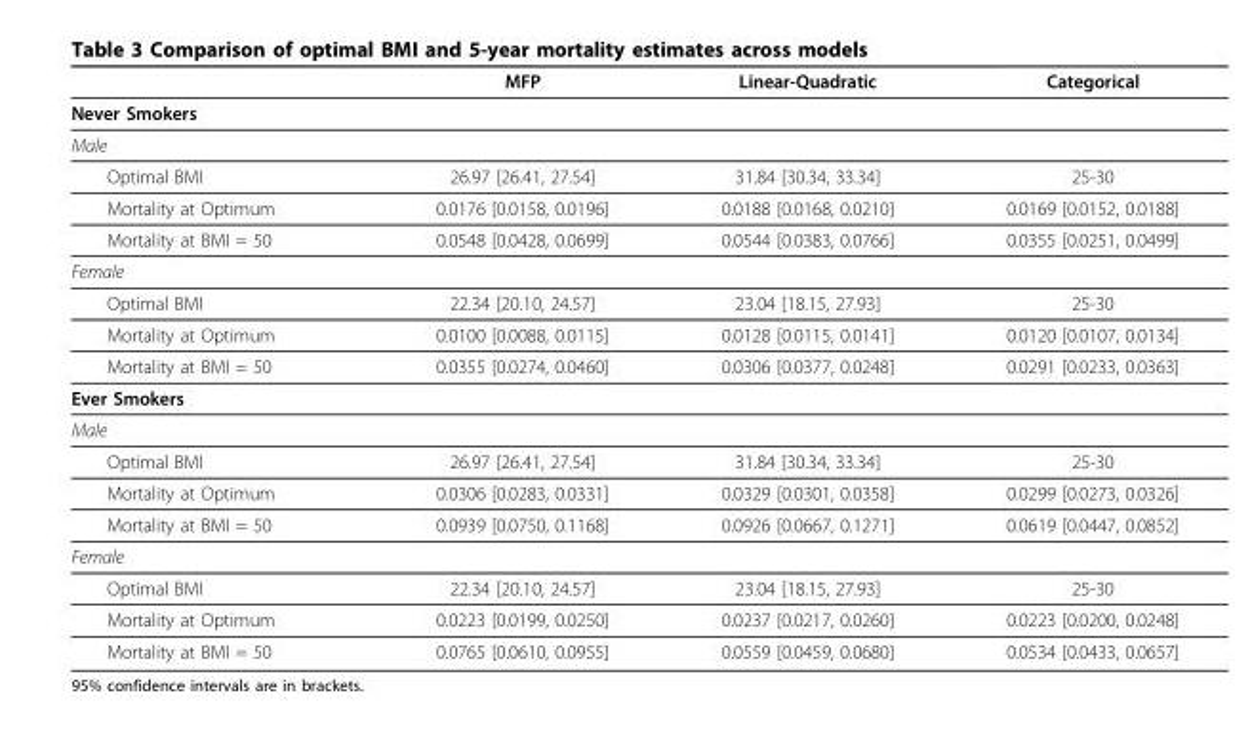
<table><thead><tr><td></td><td>MFP</td><td>Linear-Quadratic</td><td>Categorical</td></tr></thead><tbody><tr><td colspan="4">Never Smokers</td></tr><tr><td colspan="4">Male</td></tr><tr><td>Optimal BMI</td><td>26.97 [26.41, 27.54]</td><td>31.84 [30.34, 33.34]</td><td>25-30</td></tr><tr><td>Mortality at Optimum</td><td>0.0176 [0.0158, 0.0196]</td><td>0.0188 [0.0168, 0.0210]</td><td>0.0169 [0.0152, 0.0188]</td></tr><tr><td>Mortality at BMI = 50</td><td>0.0548 [0.0428, 0.0699]</td><td>0.0544 [0.0383, 0.0766]</td><td>0.0355 [0.0251, 0.0499]</td></tr><tr><td colspan="4">Female</td></tr><tr><td>Optimal BMI</td><td>22.34 [20.10, 24.57]</td><td>23.04 [18.15, 27.93]</td><td>25-30</td></tr><tr><td>Mortality at Optimum</td><td>0.0100 [0.0088, 0.0115]</td><td>0.0128 [0.0115, 0.0141]</td><td>0.0120 [0.0107, 0.0134]</td></tr><tr><td>Mortality at BMI = 50</td><td>0.0355 [0.0274, 0.0460]</td><td>0.0306 [0.0377, 0.0248]</td><td>0.0291 [0.0233, 0.0363]</td></tr><tr><td colspan="4">Ever Smokers</td></tr><tr><td colspan="4">Male</td></tr><tr><td>Optimal BMI</td><td>26.97 [26.41, 27.54]</td><td>31.84 [30.34, 33.34]</td><td>25-30</td></tr><tr><td>Mortality at Optimum</td><td>0.0306 [0.0283, 0.0331]</td><td>0.0329 [0.0301, 0.0358]</td><td>0.0299 [0.0273, 0.0326]</td></tr><tr><td>Mortality at BMI = 50</td><td>0.0939 [0.0750, 0.1168]</td><td>0.0926 [0.0667, 0.1271]</td><td>0.0619 [0.0447, 0.0852]</td></tr><tr><td colspan="4">Female</td></tr><tr><td>Optimal BMI</td><td>22.34 [20.10, 24.57]</td><td>23.04 [18.15, 27.93]</td><td>25-30</td></tr><tr><td>Mortality at Optimum</td><td>0.0223 [0.0199, 0.0250]</td><td>0.0237 [0.0217, 0.0260]</td><td>0.0223 [0.0200, 0.0248]</td></tr><tr><td>Mortality at BMI = 50</td><td>0.0765 [0.0610, 0.0955]</td><td>0.0559 [0.0459, 0.0680]</td><td>0.0534 [0.0433, 0.0657]</td></tr></tbody></table>